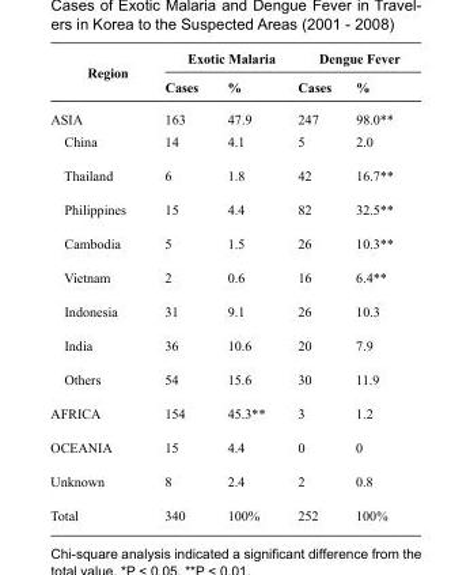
<table><thead><tr><td rowspan="2">Region</td><td colspan="2">Exotic Malaria</td><td colspan="2">Dengue Fever</td></tr><tr><td>Cases</td><td>%</td><td>Cases</td><td>%</td></tr></thead><tbody><tr><td>ASIA</td><td>163</td><td>47.9</td><td>247</td><td>98.0**</td></tr><tr><td>China</td><td>14</td><td>4.1</td><td>5</td><td>2.0</td></tr><tr><td>Thailand</td><td>6</td><td>1.8</td><td>42</td><td>16.7**</td></tr><tr><td>Philippines</td><td>15</td><td>4.4</td><td>82</td><td>32.5**</td></tr><tr><td>Cambodia</td><td>5</td><td>1.5</td><td>26</td><td>10.3**</td></tr><tr><td>Vietnam</td><td>2</td><td>0.6</td><td>16</td><td>6.4**</td></tr><tr><td>Indonesia</td><td>31</td><td>9.1</td><td>26</td><td>10.3</td></tr><tr><td>India</td><td>36</td><td>10.6</td><td>20</td><td>7.9</td></tr><tr><td>Others</td><td>54</td><td>15.6</td><td>30</td><td>11.9</td></tr><tr><td>AFRICA</td><td>154</td><td>45.3**</td><td>3</td><td>1.2</td></tr><tr><td>OCEANIA</td><td>15</td><td>4.4</td><td>0</td><td>0</td></tr><tr><td>Unknown</td><td>8</td><td>2.4</td><td>2</td><td>0.8</td></tr><tr><td>Total</td><td>340</td><td>100%</td><td>252</td><td>100%</td></tr></tbody></table>